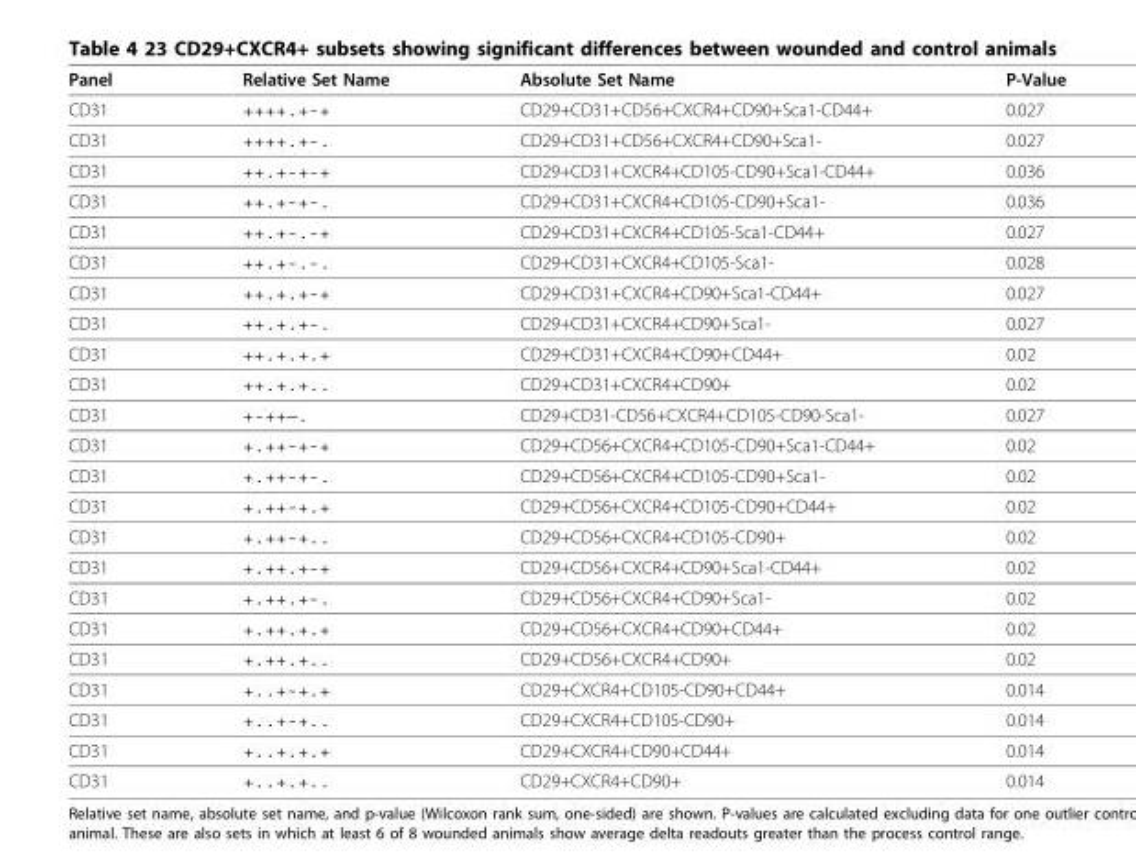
<table><thead><tr><td>Panel</td><td>Relative Set Name</td><td>Absolute Set Name</td><td>P-Value</td></tr></thead><tbody><tr><td>CD31</td><td>++++.+-+</td><td>CD29+CD31+CD56+CXCR4+CD90+Sca1-CD44+</td><td>0.027</td></tr><tr><td>CD31</td><td>++++.+-.</td><td>CD29+CD31+CD56+CXCR4+CD90+Sca1-</td><td>0.027</td></tr><tr><td>CD31</td><td>++.+-+-+</td><td>CD29+CD31+CXCR4+CD105-CD90+Sca1-CD44+</td><td>0.036</td></tr><tr><td>CD31</td><td>++.+-+-.</td><td>CD29+CD31+CXCR4+CD105-CD90+Sca1-</td><td>0.036</td></tr><tr><td>CD31</td><td>++.+-.-+</td><td>CD29+CD31+CXCR4+CD105-Sca1-CD44+</td><td>0.027</td></tr><tr><td>CD31</td><td>++.+-.-.</td><td>CD29+CD31+CXCR4+CD105-Sca1-</td><td>0.028</td></tr><tr><td>CD31</td><td>++.+.+-+</td><td>CD29+CD31+CXCR4+CD90+Sca1-CD44+</td><td>0.027</td></tr><tr><td>CD31</td><td>++.+.+-.</td><td>CD29+CD31+CXCR4+CD90+Sca1-</td><td>0.027</td></tr><tr><td>CD31</td><td>++.+.+.+</td><td>CD29+CD31+CXCR4+CD90+CD44+</td><td>0.02</td></tr><tr><td>CD31</td><td>++.+.+..</td><td>CD29+CD31+CXCR4+CD90+</td><td>0.02</td></tr><tr><td>CD31</td><td>+-++—.</td><td>CD29+CD31-CD56+CXCR4+CD105-CD90-Sca1-</td><td>0.027</td></tr><tr><td>CD31</td><td>+.++-+-+</td><td>CD29+CD56+CXCR4+CD105-CD90+Sca1-CD44+</td><td>0.02</td></tr><tr><td>CD31</td><td>+.++-+-.</td><td>CD29+CD56+CXCR4+CD105-CD90+Sca1-</td><td>0.02</td></tr><tr><td>CD31</td><td>+.++-+.+</td><td>CD29+CD56+CXCR4+CD105-CD90+CD44+</td><td>0.02</td></tr><tr><td>CD31</td><td>+.++-+..</td><td>CD29+CD56+CXCR4+CD105-CD90+</td><td>0.02</td></tr><tr><td>CD31</td><td>+.++.+-+</td><td>CD29+CD56+CXCR4+CD90+Sca1-CD44+</td><td>0.02</td></tr><tr><td>CD31</td><td>+.++.+-.</td><td>CD29+CD56+CXCR4+CD90+Sca1-</td><td>0.02</td></tr><tr><td>CD31</td><td>+.++.+.+</td><td>CD29+CD56+CXCR4+CD90+CD44+</td><td>0.02</td></tr><tr><td>CD31</td><td>+.++.+..</td><td>CD29+CD56+CXCR4+CD90+</td><td>0.02</td></tr><tr><td>CD31</td><td>+..+-+.+</td><td>CD29+CXCR4+CD105-CD90+CD44+</td><td>0.014</td></tr><tr><td>CD31</td><td>+..+-+..</td><td>CD29+CXCR4+CD105-CD90+</td><td>0.014</td></tr><tr><td>CD31</td><td>+..+.+.+</td><td>CD29+CXCR4+CD90+CD44+</td><td>0.014</td></tr><tr><td>CD31</td><td>+..+.+..</td><td>CD29+CXCR4+CD90+</td><td>0.014</td></tr></tbody></table>